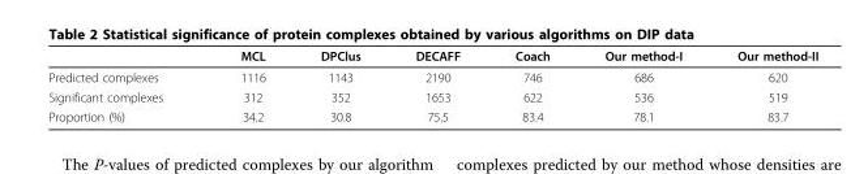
<table><thead><tr><td></td><td>MCL</td><td>DPClus</td><td>DECAFF</td><td>Coach</td><td>Our method-I</td><td>Our method-II</td></tr></thead><tbody><tr><td>Predicted complexes</td><td>1116</td><td>1143</td><td>2190</td><td>746</td><td>686</td><td>620</td></tr><tr><td>Significant complexes</td><td>312</td><td>352</td><td>1653</td><td>622</td><td>536</td><td>519</td></tr><tr><td>Proportion (%)</td><td>34.2</td><td>30.8</td><td>75.5</td><td>83.4</td><td>78.1</td><td>83.7</td></tr></tbody></table>